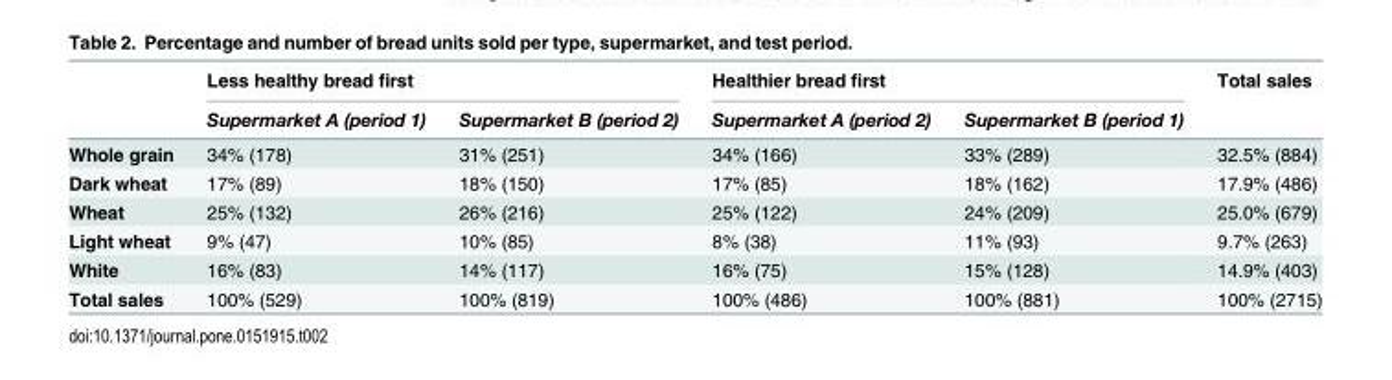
<table><thead><tr><td rowspan="2"></td><td colspan="2">Less healthy bread first</td><td colspan="2">Healthier bread first</td><td rowspan="2">Total sales</td></tr><tr><td>Supermarket A (period 1)</td><td>Supermarket B (period 2)</td><td>Supermarket A (period 2)</td><td>Supermarket B (period 1)</td></tr></thead><tbody><tr><td>Whole grain</td><td>34% (178)</td><td>31% (251)</td><td>34% (166)</td><td>33% (289)</td><td>32.5% (884)</td></tr><tr><td>Dark wheat</td><td>17% (89)</td><td>18% (150)</td><td>17% (85)</td><td>18% (162)</td><td>17.9% (486)</td></tr><tr><td>Wheat</td><td>25% (132)</td><td>26% (216)</td><td>25% (122)</td><td>24% (209)</td><td>25.0% (679)</td></tr><tr><td>Light wheat</td><td>9% (47)</td><td>10% (85)</td><td>8% (38)</td><td>11% (93)</td><td>9.7% (263)</td></tr><tr><td>White</td><td>16% (83)</td><td>14% (117)</td><td>16% (75)</td><td>15% (128)</td><td>14.9% (403)</td></tr><tr><td>Total sales</td><td>100% (529)</td><td>100% (819)</td><td>100% (486)</td><td>100% (881)</td><td>100% (2715)</td></tr></tbody></table>